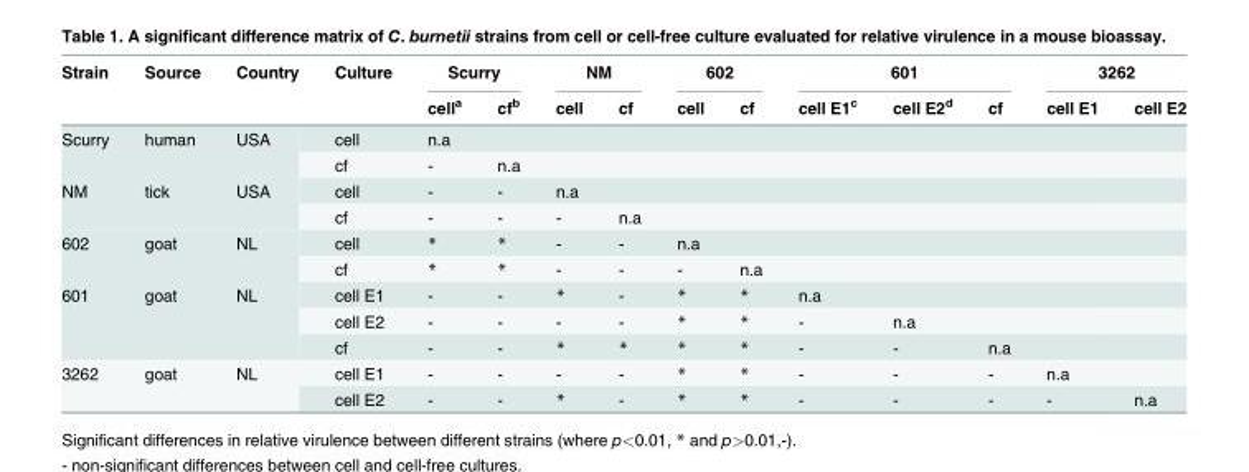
<table><thead><tr><td rowspan="2">Strain</td><td rowspan="2">Source</td><td rowspan="2">Country</td><td rowspan="2">Culture</td><td colspan="2">Scurry</td><td colspan="2">NM</td><td colspan="2">602</td><td colspan="3">601</td><td colspan="2">3262</td></tr><tr><td>cell<sup>a</sup></td><td>cf<sup>b</sup></td><td>cell</td><td>cf</td><td>cell</td><td>cf</td><td>cell E1<sup>c</sup></td><td>cell E2<sup>d</sup></td><td>cf</td><td>cell E1</td><td>cell E2</td></tr></thead><tbody><tr><td rowspan="2">Scurry</td><td rowspan="2">human</td><td rowspan="2">USA</td><td>cell</td><td>n.a</td><td></td><td></td><td></td><td></td><td></td><td></td><td></td><td></td><td></td><td></td></tr><tr><td>cf</td><td>-</td><td>n.a</td><td></td><td></td><td></td><td></td><td></td><td></td><td></td><td></td><td></td></tr><tr><td rowspan="2">NM</td><td rowspan="2">tick</td><td rowspan="2">USA</td><td>cell</td><td>-</td><td>-</td><td>n.a</td><td></td><td></td><td></td><td></td><td></td><td></td><td></td><td></td></tr><tr><td>cf</td><td>-</td><td>-</td><td>-</td><td>n.a</td><td></td><td></td><td></td><td></td><td></td><td></td><td></td></tr><tr><td rowspan="2">602</td><td rowspan="2">goat</td><td rowspan="2">NL</td><td>cell</td><td>*</td><td>*</td><td>-</td><td>-</td><td>n.a</td><td></td><td></td><td></td><td></td><td></td><td></td></tr><tr><td>cf</td><td>*</td><td>*</td><td>-</td><td>-</td><td>-</td><td>n.a</td><td></td><td></td><td></td><td></td><td></td></tr><tr><td rowspan="3">601</td><td rowspan="3">goat</td><td rowspan="3">NL</td><td>cell E1</td><td>-</td><td>-</td><td>*</td><td>-</td><td>*</td><td>*</td><td>n.a</td><td></td><td></td><td></td><td></td></tr><tr><td>cell E2</td><td>-</td><td>-</td><td>-</td><td>-</td><td>*</td><td>*</td><td>-</td><td>n.a</td><td></td><td></td><td></td></tr><tr><td>cf</td><td>-</td><td>-</td><td>*</td><td>*</td><td>*</td><td>*</td><td>-</td><td>-</td><td>n.a</td><td></td><td></td></tr><tr><td rowspan="2">3262</td><td rowspan="2">goat</td><td rowspan="2">NL</td><td>cell E1</td><td>-</td><td>-</td><td>-</td><td>-</td><td>*</td><td>*</td><td>-</td><td>-</td><td>-</td><td>n.a</td><td></td></tr><tr><td>cell E2</td><td>-</td><td>-</td><td>*</td><td>-</td><td>*</td><td>*</td><td>-</td><td>-</td><td>-</td><td>-</td><td>n.a</td></tr></tbody></table>